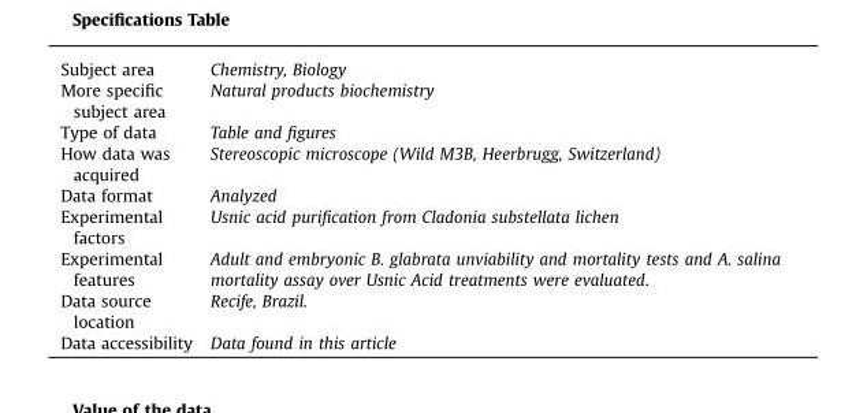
<table><thead><tr><td>Subject area</td><td>Chemistry, Biology</td></tr></thead><tbody><tr><td>More specific subject area</td><td>Natural products biochemistry</td></tr><tr><td>Type of data</td><td>Table and figures</td></tr><tr><td>How data was acquired</td><td>Stereoscopic microscope (Wild M3B, Heerbrugg, Switzerland)</td></tr><tr><td>Data format</td><td>Analyzed</td></tr><tr><td>Experimental factors</td><td>Usnic acid purification from Cladonia substellata lichen</td></tr><tr><td>Experimental features</td><td>Adult and embryonic B. glabrata unviability and mortality tests and A. salina mortality assay over Usnic Acid treatments were evaluated.</td></tr><tr><td>Data source location</td><td>Recife, Brazil.</td></tr><tr><td>Data accessibility</td><td>Data found in this article</td></tr></tbody></table>